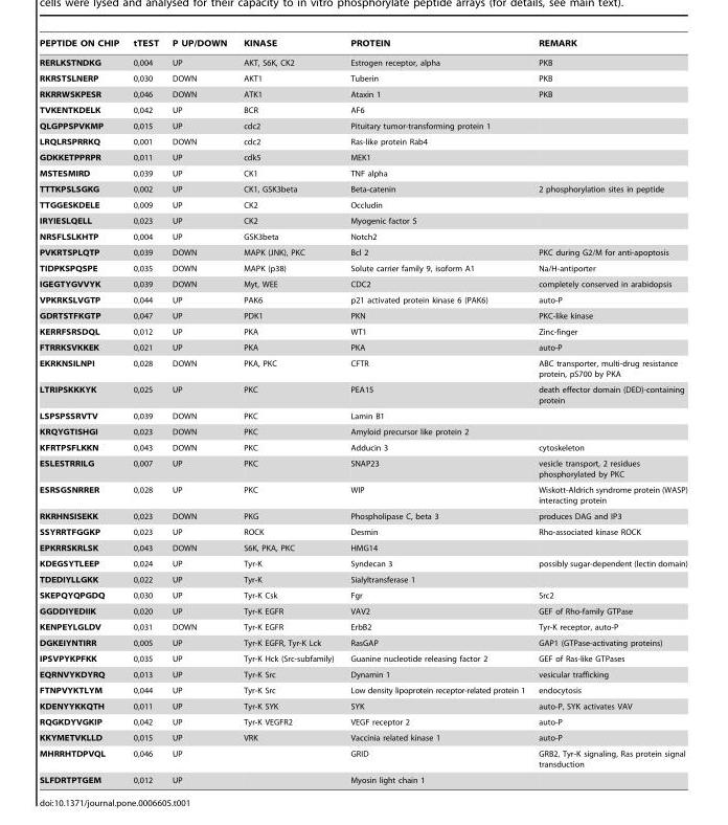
<table><thead><tr><td>PEPTIDE ON CHIP</td><td>tTEST</td><td>P UP/DOWN</td><td>KINASE</td><td>PROTEIN</td><td>REMARK</td></tr></thead><tbody><tr><td>RERLKSTNDKG</td><td>0,004</td><td>UP</td><td>AKT, S6K, CK2</td><td>Estrogen receptor, alpha</td><td>PKB</td></tr><tr><td>RKRSTSLNERP</td><td>0,030</td><td>DOWN</td><td>AKT1</td><td>Tuberin</td><td>PKB</td></tr><tr><td>RKRRWSKPESR</td><td>0,046</td><td>DOWN</td><td>ATK1</td><td>Ataxin 1</td><td>PKB</td></tr><tr><td>TVKENTKDELK</td><td>0,042</td><td>UP</td><td>BCR</td><td>AF6</td><td></td></tr><tr><td>QLGPPSPVKMP</td><td>0,015</td><td>UP</td><td>cdc2</td><td>Pituitary tumor-transforming protein 1</td><td></td></tr><tr><td>LRQLRSPRRKQ</td><td>0,001</td><td>DOWN</td><td>cdc2</td><td>Ras-like protein Rab4</td><td></td></tr><tr><td>GDKKETPPRPR</td><td>0,011</td><td>UP</td><td>cdk5</td><td>MEK1</td><td></td></tr><tr><td>MSTESMIRD</td><td>0,039</td><td>UP</td><td>CK1</td><td>TNF alpha</td><td></td></tr><tr><td>TTTKPSLSGKG</td><td>0,002</td><td>UP</td><td>CK1, GSK3beta</td><td>Beta-catenin</td><td>2 phosphorylation sites in peptide</td></tr><tr><td>TTGGESKDELE</td><td>0,009</td><td>UP</td><td>CK2</td><td>Occludin</td><td></td></tr><tr><td>IRYIESLQELL</td><td>0,023</td><td>UP</td><td>CK2</td><td>Myogenic factor 5</td><td></td></tr><tr><td>NRSFLSLKHTP</td><td>0,004</td><td>UP</td><td>GSK3beta</td><td>Notch2</td><td></td></tr><tr><td>PVKRTSPLQTP</td><td>0,039</td><td>DOWN</td><td>MAPK (JNK), PKC</td><td>Bcl 2</td><td>PKC during G2/M for anti-apoptosis</td></tr><tr><td>TIDPKSPQSPE</td><td>0,035</td><td>DOWN</td><td>MAPK (p38)</td><td>Solute carrier family 9, isoform A1</td><td>Na/H-antiporter</td></tr><tr><td>IGEGTYGVVYK</td><td>0,039</td><td>DOWN</td><td>Myt, WEE</td><td>CDC2</td><td>completely conserved in arabidopsis</td></tr><tr><td>VPKRKSLVGTP</td><td>0,044</td><td>UP</td><td>PAK6</td><td>p21 activated protein kinase 6 (PAK6)</td><td>auto-P</td></tr><tr><td>GDRTSTFKGTP</td><td>0,047</td><td>UP</td><td>PDK1</td><td>PKN</td><td>PKC-like kinase</td></tr><tr><td>KERRFSRSDQL</td><td>0,012</td><td>UP</td><td>PKA</td><td>WT1</td><td>Zinc-finger</td></tr><tr><td>FTRRKSVKKEK</td><td>0,021</td><td>UP</td><td>PKA</td><td>PKA</td><td>auto-P</td></tr><tr><td>EKRKNSILNPI</td><td>0,028</td><td>DOWN</td><td>PKA, PKC</td><td>CFTR</td><td>ABC transporter, multi-drug resistance protein, pS700 by PKA</td></tr><tr><td>LTRIPSKKKYK</td><td>0,025</td><td>UP</td><td>PKC</td><td>PEA15</td><td>death effector domain (DED)-containing protein</td></tr><tr><td>LSPSPSSRVTV</td><td>0,039</td><td>DOWN</td><td>PKC</td><td>Lamin B1</td><td></td></tr><tr><td>KRQYGTISHGI</td><td>0,023</td><td>DOWN</td><td>PKC</td><td>Amyloid precursor like protein 2</td><td></td></tr><tr><td>KFRTPSFLKKN</td><td>0,043</td><td>DOWN</td><td>PKC</td><td>Adducin 3</td><td>cytoskeleton</td></tr><tr><td>ESLESTRRILG</td><td>0,007</td><td>UP</td><td>PKC</td><td>SNAP23</td><td>vesicle transport, 2 residues phosphorylated by PKC</td></tr><tr><td>ESRSGSNRRER</td><td>0,028</td><td>UP</td><td>PKC</td><td>WIP</td><td>Wiskott-Aldrich syndrome protein (WASP) interacting protein</td></tr><tr><td>RKRHNSISEKK</td><td>0,023</td><td>DOWN</td><td>PKG</td><td>Phospholipase C, beta 3</td><td>produces DAG and IP3</td></tr><tr><td>SSYRRTFGGKP</td><td>0,023</td><td>UP</td><td>ROCK</td><td>Desmin</td><td>Rho-associated kinase ROCK</td></tr><tr><td>EPKRRSKRLSK</td><td>0,043</td><td>DOWN</td><td>S6K, PKA, PKC</td><td>HMG14</td><td></td></tr><tr><td>KDEGSYTLEEP</td><td>0,024</td><td>UP</td><td>Tyr-K</td><td>Syndecan 3</td><td>possibly sugar-dependent (lectin domain)</td></tr><tr><td>TDEDIYLLGKK</td><td>0,022</td><td>UP</td><td>Tyr-K</td><td>Sialyltransferase 1</td><td></td></tr><tr><td>SKEPQYQPGDQ</td><td>0,030</td><td>UP</td><td>Tyr-K Csk</td><td>Fgr</td><td>Src2</td></tr><tr><td>GGDDIYEDIIK</td><td>0,020</td><td>UP</td><td>Tyr-K EGFR</td><td>VAV2</td><td>GEF of Rho-family GTPase</td></tr><tr><td>KENPEYLGLDV</td><td>0,031</td><td>DOWN</td><td>Tyr-K EGFR</td><td>ErbB2</td><td>Tyr-K receptor, auto-P</td></tr><tr><td>DGKEIYNTIRR</td><td>0,005</td><td>UP</td><td>Tyr-K EGFR, Tyr-K Lck</td><td>RasGAP</td><td>GAP1 (GTPase-activating proteins)</td></tr><tr><td>IPSVPYKPFKK</td><td>0,035</td><td>UP</td><td>Tyr-K Hck (Src-subfamily)</td><td>Guanine nucleotide releasing factor 2</td><td>GEF of Ras-like GTPases</td></tr><tr><td>EQRNVYKDYRQ</td><td>0,013</td><td>UP</td><td>Tyr-K Src</td><td>Dynamin 1</td><td>vesicular trafficking</td></tr><tr><td>FTNPVYKTLYM</td><td>0,044</td><td>UP</td><td>Tyr-K Src</td><td>Low density lipoprotein receptor-related protein 1</td><td>endocytosis</td></tr><tr><td>KDENYYKKQTH</td><td>0,011</td><td>UP</td><td>Tyr-K SYK</td><td>SYK</td><td>auto-P, SYK activates VAV</td></tr><tr><td>RQGKDYVGKIP</td><td>0,042</td><td>UP</td><td>Tyr-K VEGFR2</td><td>VEGF receptor 2</td><td>auto-P</td></tr><tr><td>KKYMETVKLLD</td><td>0,015</td><td>UP</td><td>VRK</td><td>Vaccinia related kinase 1</td><td>auto-P</td></tr><tr><td>MHRRHTDPVQL</td><td>0,046</td><td>UP</td><td></td><td>GRID</td><td>GRB2, Tyr-K signaling, Ras protein signal transduction</td></tr><tr><td>SLFDRTPTGEM</td><td>0,012</td><td>UP</td><td></td><td>Myosin light chain 1</td><td></td></tr></tbody></table>